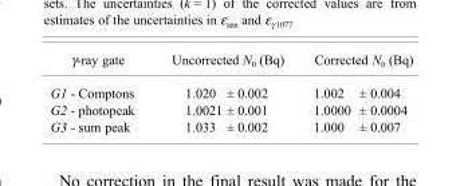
<table><thead><tr><td>γ-ray gate</td><td>Uncorrected N<sub>0</sub> (Bq)</td><td>Corrected N<sub>0</sub> (Bq)</td></tr></thead><tbody><tr><td>G1 - Comptons</td><td>1.020 ± 0.002</td><td>1.002 ± 0.004</td></tr><tr><td>G2 - photopeak</td><td>1.0021 ± 0.001</td><td>1.0000 ± 0.0004</td></tr><tr><td>G3 - sum peak</td><td>1.033 ± 0.002</td><td>1.000 ± 0.007</td></tr></tbody></table>